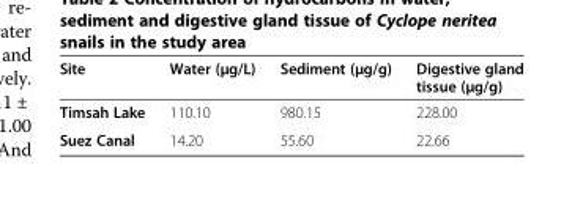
<table><thead><tr><td>Site</td><td>Water (μg/L)</td><td>Sediment (μg/g)</td><td>Digestive gland tissue (μg/g)</td></tr></thead><tbody><tr><td>Timsah Lake</td><td>110.10</td><td>980.15</td><td>228.00</td></tr><tr><td>Suez Canal</td><td>14.20</td><td>55.60</td><td>22.66</td></tr></tbody></table>